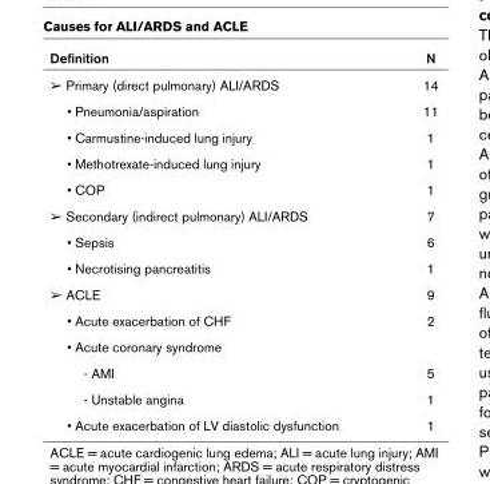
<table><thead><tr><td>Definition</td><td>N</td></tr></thead><tbody><tr><td>➢ Primary (direct pulmonary) ALI/ARDS</td><td>14</td></tr><tr><td>• Pneumonia/aspiration</td><td>11</td></tr><tr><td>• Carmustine-induced lung injury</td><td>1</td></tr><tr><td>• Methotrexate-induced lung injury</td><td>1</td></tr><tr><td>• COP</td><td>1</td></tr><tr><td>➢ Secondary (indirect pulmonary) ALI/ARDS</td><td>7</td></tr><tr><td>• Sepsis</td><td>6</td></tr><tr><td>• Necrotising pancreatitis</td><td>1</td></tr><tr><td>➢ ACLE</td><td>9</td></tr><tr><td>• Acute exacerbation of CHF</td><td>2</td></tr><tr><td colspan="2">• Acute coronary syndrome</td></tr><tr><td>- AMI</td><td>5</td></tr><tr><td>- Unstable angina</td><td>1</td></tr><tr><td>• Acute exacerbation of LV diastolic dysfunction</td><td>1</td></tr></tbody></table>